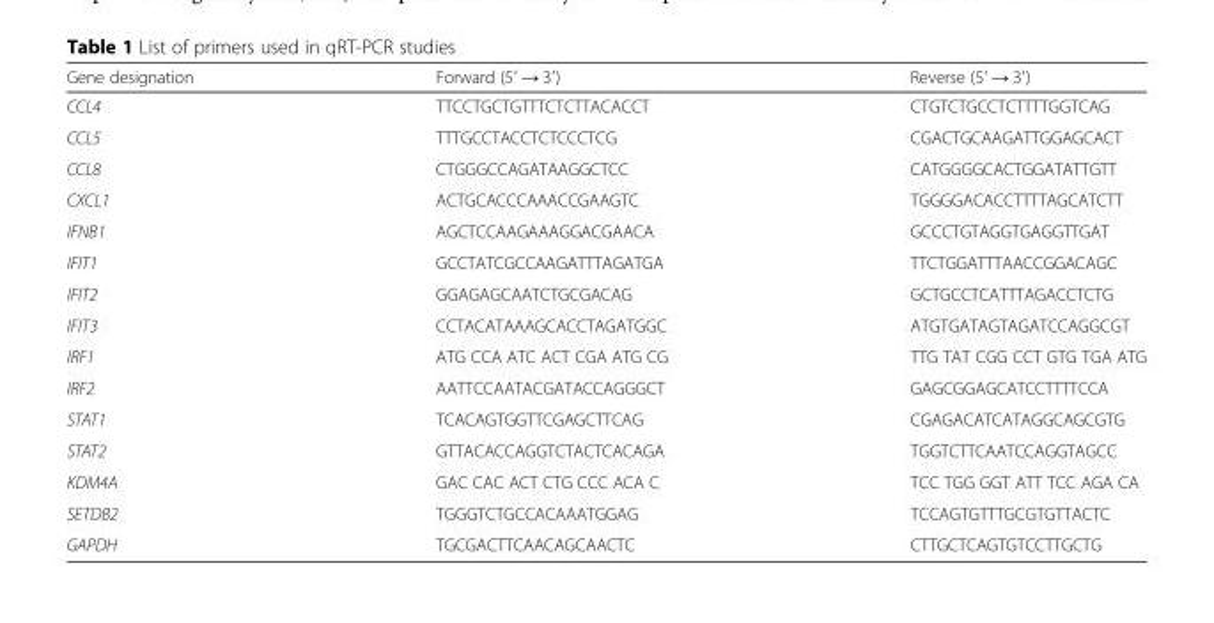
<table><thead><tr><td>Gene designation</td><td>Forward (5′ → 3′)</td><td>Reverse (5′ → 3′)</td></tr></thead><tbody><tr><td>CCL4</td><td>TTCCTGCTGTTTCTCTTACACCT</td><td>CTGTCTGCCTCTTTTGGTCAG</td></tr><tr><td>CCL5</td><td>TTTGCCTACCTCTCCCTCG</td><td>CGACTGCAAGATTGGAGCACT</td></tr><tr><td>CCL8</td><td>CTGGGCCAGATAAGGCTCC</td><td>CATGGGGCACTGGATATTGTT</td></tr><tr><td>CXCL1</td><td>ACTGCACCCAAACCGAAGTC</td><td>TGGGGACACCTTTTAGCATCTT</td></tr><tr><td>IFNB1</td><td>AGCTCCAAGAAAGGACGAACA</td><td>GCCCTGTAGGTGAGGTTGAT</td></tr><tr><td>IFIT1</td><td>GCCTATCGCCAAGATTTAGATGA</td><td>TTCTGGATTTAACCGGACAGC</td></tr><tr><td>IFIT2</td><td>GGAGAGCAATCTGCGACAG</td><td>GCTGCCTCATTTAGACCTCTG</td></tr><tr><td>IFIT3</td><td>CCTACATAAAGCACCTAGATGGC</td><td>ATGTGATAGTAGATCCAGGCGT</td></tr><tr><td>IRF1</td><td>ATG CCA ATC ACT CGA ATG CG</td><td>TTG TAT CGG CCT GTG TGA ATG</td></tr><tr><td>IRF2</td><td>AATTCCAATACGATACCAGGGCT</td><td>GAGCGGAGCATCCTTTTCCA</td></tr><tr><td>STAT1</td><td>TCACAGTGGTTCGAGCTTCAG</td><td>CGAGACATCATAGGCAGCGTG</td></tr><tr><td>STAT2</td><td>GTTACACCAGGTCTACTCACAGA</td><td>TGGTCTTCAATCCAGGTAGCC</td></tr><tr><td>KDM4A</td><td>GAC CAC ACT CTG CCC ACA C</td><td>TCC TGG GGT ATT TCC AGA CA</td></tr><tr><td>SETDB2</td><td>TGGGTCTGCCACAAATGGAG</td><td>TCCAGTGTTTGCGTGTTACTC</td></tr><tr><td>GAPDH</td><td>TGCGACTTCAACAGCAACTC</td><td>CTTGCTCAGTGTCCTTGCTG</td></tr></tbody></table>